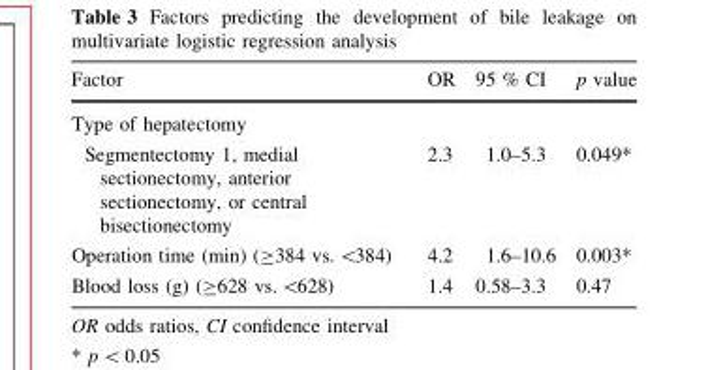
<table><thead><tr><td>Factor</td><td>OR</td><td>95 % CI</td><td>p value</td></tr></thead><tbody><tr><td colspan="4">Type of hepatectomy</td></tr><tr><td>Segmentectomy 1, medial sectionectomy, anterior sectionectomy, or central bisectionectomy</td><td>2.3</td><td>1.0–5.3</td><td>0.049*</td></tr><tr><td>Operation time (min) (≥384 vs. &lt;384)</td><td>4.2</td><td>1.6–10.6</td><td>0.003*</td></tr><tr><td>Blood loss (g) (≥628 vs. &lt;628)</td><td>1.4</td><td>0.58–3.3</td><td>0.47</td></tr></tbody></table>